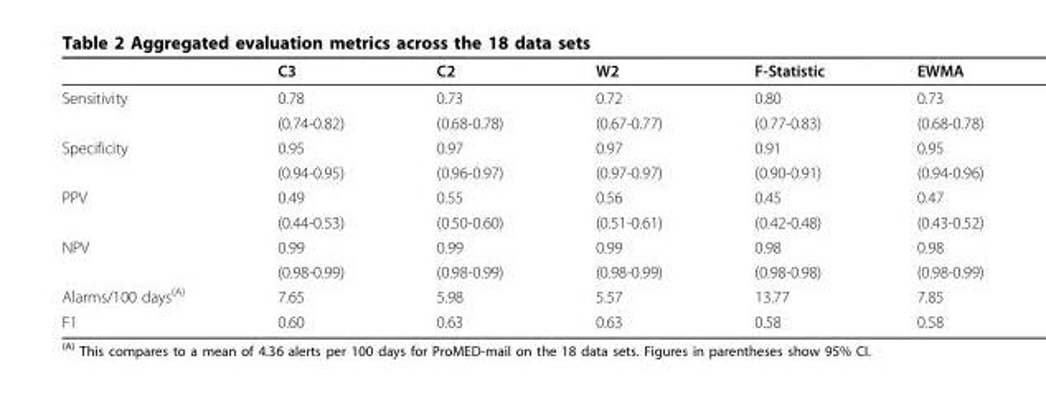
<table><thead><tr><td></td><td>C3</td><td>C2</td><td>W2</td><td>F-Statistic</td><td>EWMA</td></tr></thead><tbody><tr><td rowspan="2">Sensitivity</td><td>0.78</td><td>0.73</td><td>0.72</td><td>0.80</td><td>0.73</td></tr><tr><td>(0.74-0.82)</td><td>(0.68-0.78)</td><td>(0.67-0.77)</td><td>(0.77-0.83)</td><td>(0.68-0.78)</td></tr><tr><td rowspan="2">Specificity</td><td>0.95</td><td>0.97</td><td>0.97</td><td>0.91</td><td>0.95</td></tr><tr><td>(0.94-0.95)</td><td>(0.96-0.97)</td><td>(0.97-0.97)</td><td>(0.90-0.91)</td><td>(0.94-0.96)</td></tr><tr><td rowspan="2">PPV</td><td>0.49</td><td>0.55</td><td>0.56</td><td>0.45</td><td>0.47</td></tr><tr><td>(0.44-0.53)</td><td>(0.50-0.60)</td><td>(0.51-0.61)</td><td>(0.42-0.48)</td><td>(0.43-0.52)</td></tr><tr><td rowspan="2">NPV</td><td>0.99</td><td>0.99</td><td>0.99</td><td>0.98</td><td>0.98</td></tr><tr><td>(0.98-0.99)</td><td>(0.98-0.99)</td><td>(0.98-0.99)</td><td>(0.98-0.98)</td><td>(0.98-0.99)</td></tr><tr><td>Alarms/100 days<sup>(A)</sup></td><td>7.65</td><td>5.98</td><td>5.57</td><td>13.77</td><td>7.85</td></tr><tr><td>F1</td><td>0.60</td><td>0.63</td><td>0.63</td><td>0.58</td><td>0.58</td></tr></tbody></table>